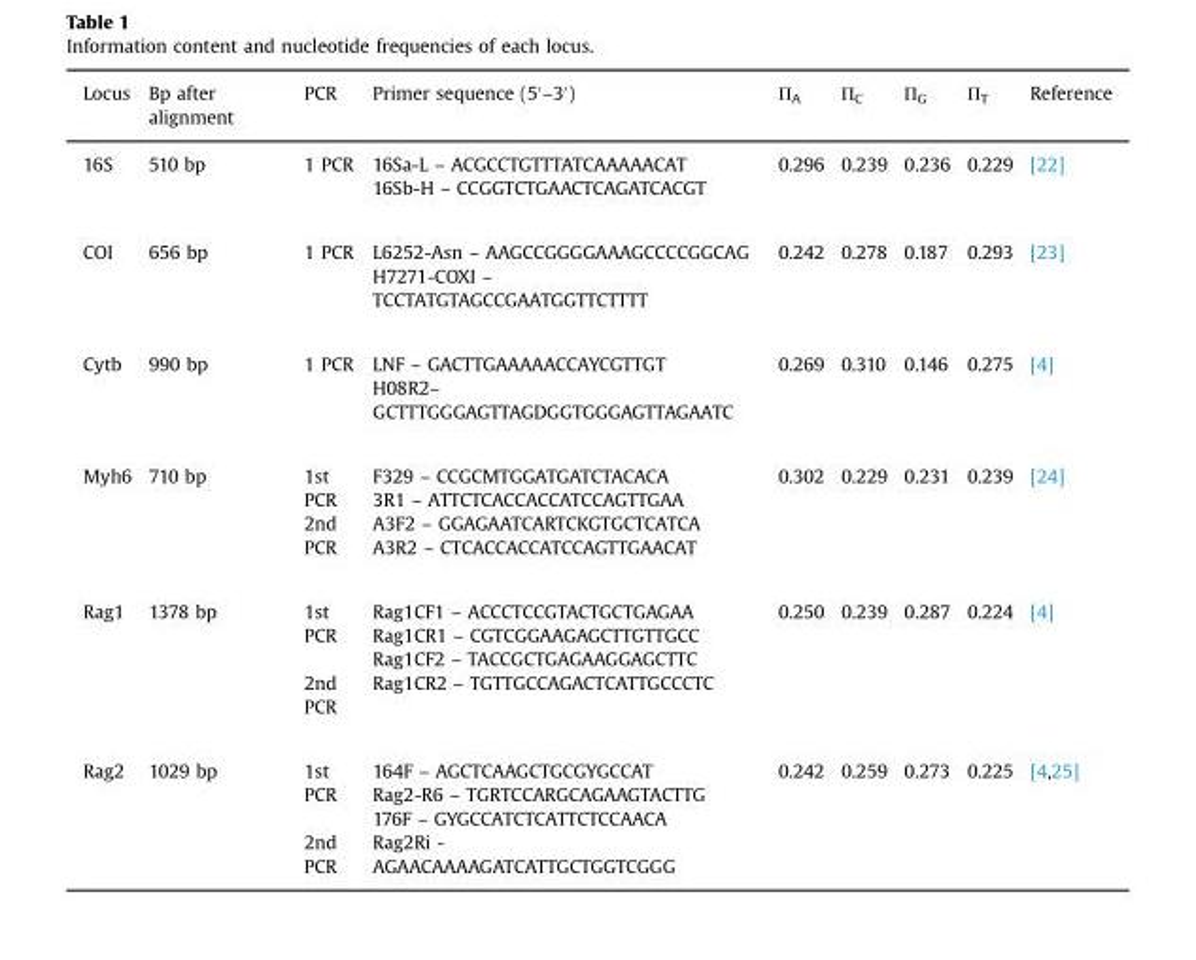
<table><thead><tr><td>Locus</td><td>Bp after alignment</td><td>PCR</td><td>Primer sequence (5′–3′)</td><td>Π<sub>A</sub></td><td>Π<sub>C</sub></td><td>Π<sub>G</sub></td><td>Π<sub>T</sub></td><td>Reference</td></tr></thead><tbody><tr><td rowspan="2">16S</td><td rowspan="2">510 bp</td><td rowspan="2">1 PCR</td><td>16Sa-L – ACGCCTGTTTATCAAAAACAT</td><td rowspan="2">0.296</td><td rowspan="2">0.239</td><td rowspan="2">0.236</td><td rowspan="2">0.229</td><td rowspan="2">[22]</td></tr><tr><td>16Sb-H – CCGGTCTGAACTCAGATCACGT</td></tr><tr><td rowspan="2">COI</td><td rowspan="2">656 bp</td><td rowspan="2">1 PCR</td><td>L6252-Asn – AAGCCGGGGAAAGCCCCGGCAG</td><td rowspan="2">0.242</td><td rowspan="2">0.278</td><td rowspan="2">0.187</td><td rowspan="2">0.293</td><td rowspan="2">[23]</td></tr><tr><td>H7271-COXI – TCCTATGTAGCCGAATGGTTCTTTT</td></tr><tr><td rowspan="2">Cytb</td><td rowspan="2">990 bp</td><td rowspan="2">1 PCR</td><td>LNF – GACTTGAAAAACCAYCGTTGT</td><td rowspan="2">0.269</td><td rowspan="2">0.310</td><td rowspan="2">0.146</td><td rowspan="2">0.275</td><td rowspan="2">[4]</td></tr><tr><td>H08R2– GCTTTGGGAGTTAGDGGTGGGAGTTAGAATC</td></tr><tr><td rowspan="4">Myh6</td><td rowspan="4">710 bp</td><td rowspan="2">1st PCR</td><td>F329 – CCGCMTGGATGATCTACACA</td><td rowspan="4">0.302</td><td rowspan="4">0.229</td><td rowspan="4">0.231</td><td rowspan="4">0.239</td><td rowspan="4">[24]</td></tr><tr><td>3R1 – ATTCTCACCACCATCCAGTTGAA</td></tr><tr><td rowspan="2">2nd PCR</td><td>A3F2 – GGAGAATCARTCKGTGCTCATCA</td></tr><tr><td>A3R2 – CTCACCACCATCCAGTTGAACAT</td></tr><tr><td rowspan="4">Rag1</td><td rowspan="4">1378 bp</td><td rowspan="3">1st PCR</td><td>Rag1CF1 – ACCCTCCGTACTGCTGAGAA</td><td rowspan="4">0.250</td><td rowspan="4">0.239</td><td rowspan="4">0.287</td><td rowspan="4">0.224</td><td rowspan="4">[4]</td></tr><tr><td>Rag1CR1 – CGTCGGAAGAGCTTGTTGCC</td></tr><tr><td>Rag1CF2 – TACCGCTGAGAAGGAGCTTC</td></tr><tr><td>2nd PCR</td><td>Rag1CR2 – TGTTGCCAGACTCATTGCCCTC</td></tr><tr><td rowspan="4">Rag2</td><td rowspan="4">1029 bp</td><td rowspan="3">1st PCR</td><td>164F – AGCTCAAGCTGCGYGCCAT</td><td rowspan="4">0.242</td><td rowspan="4">0.259</td><td rowspan="4">0.273</td><td rowspan="4">0.225</td><td rowspan="4">[4,25]</td></tr><tr><td>Rag2-R6 – TGRTCCARGCAGAAGTACTTG</td></tr><tr><td>176F – GYGCCATCTCATTCTCCAACA</td></tr><tr><td>2nd PCR</td><td>Rag2Ri - AGAACAAAAGATCATTGCTGGTCGGG</td></tr></tbody></table>